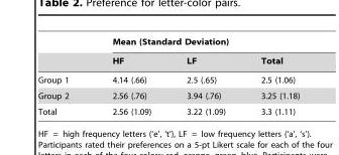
<table><thead><tr><td rowspan="2"></td><td colspan="3">Mean (Standard Deviation)</td></tr><tr><td>HF</td><td>LF</td><td>Total</td></tr></thead><tbody><tr><td>Group 1</td><td>4.14 (.66)</td><td>2.5 (.65)</td><td>2.5 (1.06)</td></tr><tr><td>Group 2</td><td>2.56 (.76)</td><td>3.94 (.76)</td><td>3.25 (1.18)</td></tr><tr><td>Total</td><td>2.56 (1.09)</td><td>3.22 (1.09)</td><td>3.3 (1.11)</td></tr></tbody></table>